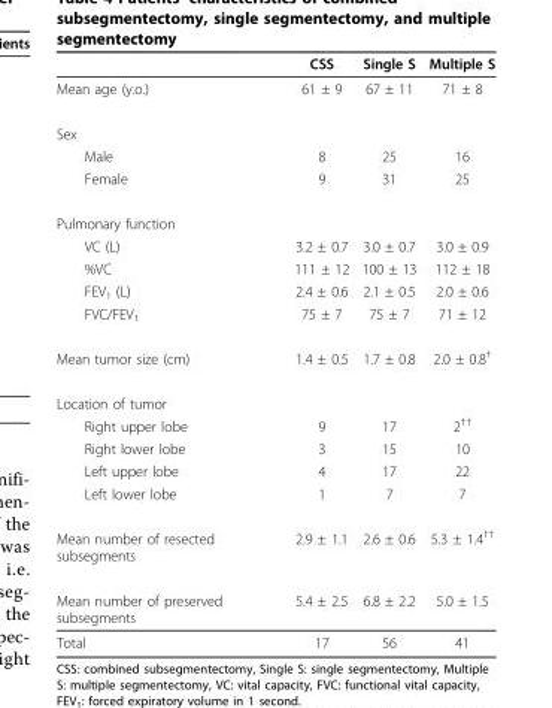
<table><thead><tr><td></td><td>CSS</td><td>Single S</td><td>Multiple S</td></tr></thead><tbody><tr><td>Mean age (y.o.)</td><td>61 ± 9</td><td>67 ± 11</td><td>71 ± 8</td></tr><tr><td colspan="4">Sex</td></tr><tr><td>Male</td><td>8</td><td>25</td><td>16</td></tr><tr><td>Female</td><td>9</td><td>31</td><td>25</td></tr><tr><td colspan="4">Pulmonary function</td></tr><tr><td>VC (L)</td><td>3.2 ± 0.7</td><td>3.0 ± 0.7</td><td>3.0 ± 0.9</td></tr><tr><td>%VC</td><td>111 ± 12</td><td>100 ± 13</td><td>112 ± 18</td></tr><tr><td>FEV<sub>1</sub> (L)</td><td>2.4 ± 0.6</td><td>2.1 ± 0.5</td><td>2.0 ± 0.6</td></tr><tr><td>FVC/FEV<sub>1</sub></td><td>75 ± 7</td><td>75 ± 7</td><td>71 ± 12</td></tr><tr><td>Mean tumor size (cm)</td><td>1.4 ± 0.5</td><td>1.7 ± 0.8</td><td>2.0 ± 0.8<sup>†</sup></td></tr><tr><td colspan="4">Location of tumor</td></tr><tr><td>Right upper lobe</td><td>9</td><td>17</td><td>2<sup>††</sup></td></tr><tr><td>Right lower lobe</td><td>3</td><td>15</td><td>10</td></tr><tr><td>Left upper lobe</td><td>4</td><td>17</td><td>22</td></tr><tr><td>Left lower lobe</td><td>1</td><td>7</td><td>7</td></tr><tr><td>Mean number of resected subsegments</td><td>2.9 ± 1.1</td><td>2.6 ± 0.6</td><td>5.3 ± 1.4<sup>††</sup></td></tr><tr><td>Mean number of preserved subsegments</td><td>5.4 ± 2.5</td><td>6.8 ± 2.2</td><td>5.0 ± 1.5</td></tr><tr><td>Total</td><td>17</td><td>56</td><td>41</td></tr></tbody></table>